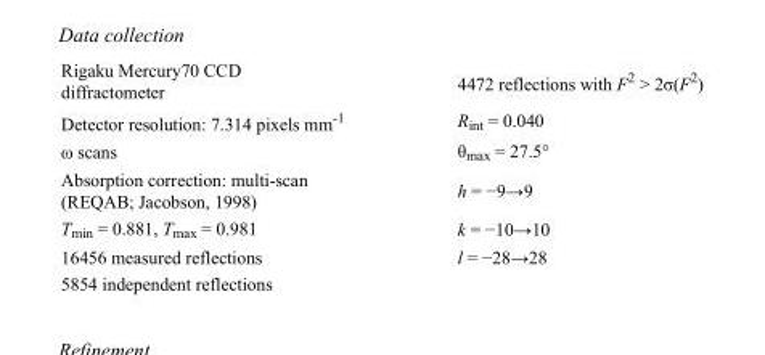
<table><tbody><tr><td>Rigaku Mercury70 CCD diffractometer</td><td>4472 reflections with F<sup>2</sup> &gt; 2σ(F<sup>2</sup>)</td></tr><tr><td>Detector resolution: 7.314 pixels mm<sup>-1</sup></td><td>R<sub>int</sub> = 0.040</td></tr><tr><td>ω scans</td><td>θ<sub>max</sub> = 27.5°</td></tr><tr><td>Absorption correction: multi-scan (REQAB; Jacobson, 1998)</td><td>h = −9→9</td></tr><tr><td>T<sub>min</sub> = 0.881, T<sub>max</sub> = 0.981</td><td>k = −10→10</td></tr><tr><td>16456 measured reflections</td><td>l = −28→28</td></tr><tr><td>5854 independent reflections</td><td></td></tr></tbody></table>